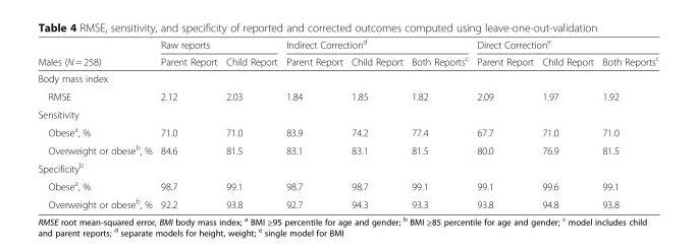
<table><thead><tr><td rowspan="2">Males (N = 258)</td><td colspan="2">Raw reports</td><td colspan="3">Indirect Correction<sup>d</sup></td><td colspan="3">Direct Correction<sup>e</sup></td></tr><tr><td>Parent Report</td><td>Child Report</td><td>Parent Report</td><td>Child Report</td><td>Both Reports<sup>c</sup></td><td>Parent Report</td><td>Child Report</td><td>Both Reports<sup>c</sup></td></tr></thead><tbody><tr><td colspan="9">Body mass index</td></tr><tr><td>RMSE</td><td>2.12</td><td>2.03</td><td>1.84</td><td>1.85</td><td>1.82</td><td>2.09</td><td>1.97</td><td>1.92</td></tr><tr><td colspan="9">Sensitivity</td></tr><tr><td>Obese<sup>a</sup>, %</td><td>71.0</td><td>71.0</td><td>83.9</td><td>74.2</td><td>77.4</td><td>67.7</td><td>71.0</td><td>71.0</td></tr><tr><td>Overweight or obese<sup>b</sup>, %</td><td>84.6</td><td>81.5</td><td>83.1</td><td>83.1</td><td>81.5</td><td>80.0</td><td>76.9</td><td>81.5</td></tr><tr><td colspan="9">Specificity<sup>b</sup></td></tr><tr><td>Obese<sup>a</sup>, %</td><td>98.7</td><td>99.1</td><td>98.7</td><td>98.7</td><td>99.1</td><td>99.1</td><td>99.6</td><td>99.1</td></tr><tr><td>Overweight or obese<sup>b</sup>, %</td><td>92.2</td><td>93.8</td><td>92.7</td><td>94.3</td><td>93.3</td><td>93.8</td><td>94.8</td><td>93.8</td></tr></tbody></table>